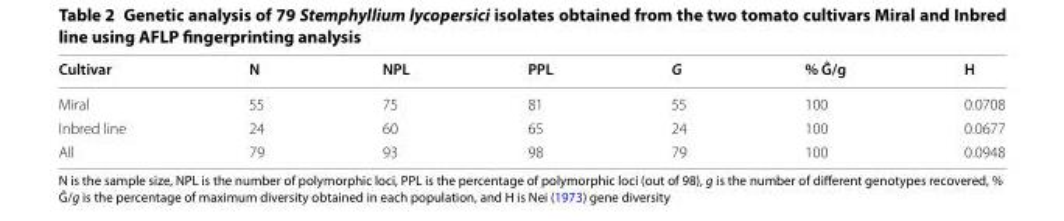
<table><thead><tr><td>Cultivar</td><td>N</td><td>NPL</td><td>PPL</td><td>G</td><td>% Ĝ/g</td><td>H</td></tr></thead><tbody><tr><td>Miral</td><td>55</td><td>75</td><td>81</td><td>55</td><td>100</td><td>0.0708</td></tr><tr><td>Inbred line</td><td>24</td><td>60</td><td>65</td><td>24</td><td>100</td><td>0.0677</td></tr><tr><td>All</td><td>79</td><td>93</td><td>98</td><td>79</td><td>100</td><td>0.0948</td></tr></tbody></table>